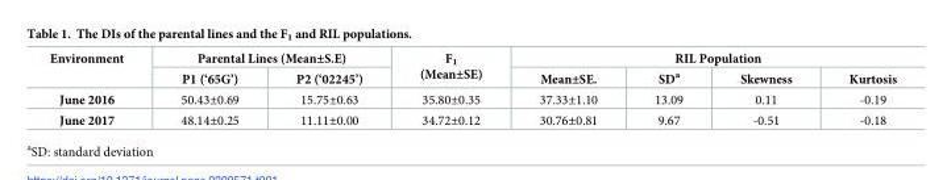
<table><thead><tr><td rowspan="2">Environment</td><td colspan="2">Parental Lines (Mean±S.E)</td><td rowspan="2">F<sub>1</sub> (Mean±SE)</td><td colspan="4">RIL Population</td></tr><tr><td>P1 (‘65G’)</td><td>P2 (‘02245’)</td><td>Mean±SE.</td><td>SD<sup>a</sup></td><td>Skewness</td><td>Kurtosis</td></tr></thead><tbody><tr><td>June 2016</td><td>50.43±0.69</td><td>15.75±0.63</td><td>35.80±0.35</td><td>37.33±1.10</td><td>13.09</td><td>0.11</td><td>-0.19</td></tr><tr><td>June 2017</td><td>48.14±0.25</td><td>11.11±0.00</td><td>34.72±0.12</td><td>30.76±0.81</td><td>9.67</td><td>-0.51</td><td>-0.18</td></tr></tbody></table>